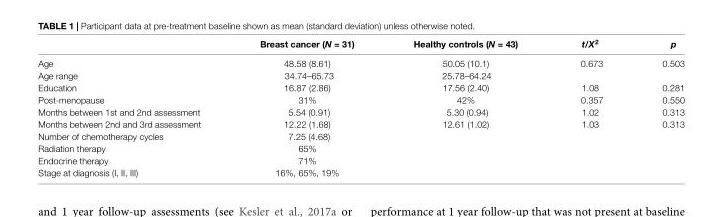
<table><thead><tr><td></td><td>Breast cancer (N = 31)</td><td>Healthy controls (N = 43)</td><td>t/X<sup>2</sup></td><td>p</td></tr></thead><tbody><tr><td>Age</td><td>48.58 (8.61)</td><td>50.05 (10.1)</td><td>0.673</td><td>0.503</td></tr><tr><td>Age range</td><td>34.74–65.73</td><td>25.78–64.24</td><td></td><td></td></tr><tr><td>Education</td><td>16.87 (2.86)</td><td>17.56 (2.40)</td><td>1.08</td><td>0.281</td></tr><tr><td>Post-menopause</td><td>31%</td><td>42%</td><td>0.357</td><td>0.550</td></tr><tr><td>Months between 1st and 2nd assessment</td><td>5.54 (0.91)</td><td>5.30 (0.94)</td><td>1.02</td><td>0.313</td></tr><tr><td>Months between 2nd and 3rd assessment</td><td>12.22 (1.68)</td><td>12.61 (1.02)</td><td>1.03</td><td>0.313</td></tr><tr><td>Number of chemotherapy cycles</td><td>7.25 (4.68)</td><td></td><td></td><td></td></tr><tr><td>Radiation therapy</td><td>65%</td><td></td><td></td><td></td></tr><tr><td>Endocrine therapy</td><td>71%</td><td></td><td></td><td></td></tr><tr><td>Stage at diagnosis (I, II, III)</td><td>16%, 65%, 19%</td><td></td><td></td><td></td></tr></tbody></table>